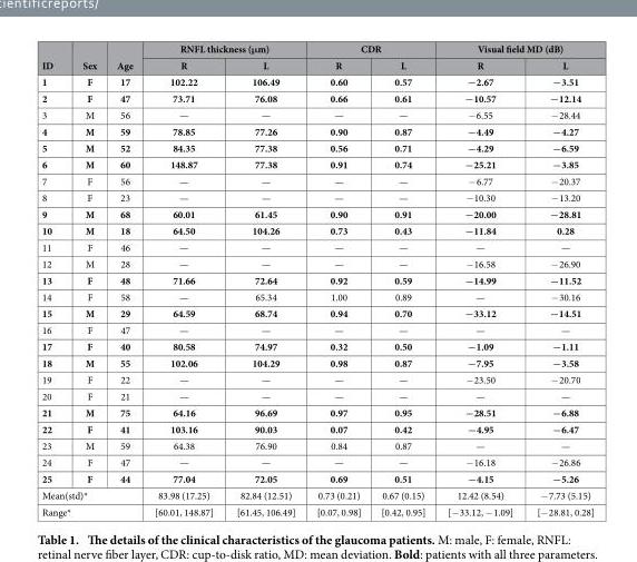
<table><thead><tr><td rowspan="2">ID</td><td rowspan="2">Sex</td><td rowspan="2">Age</td><td colspan="2">RNFL thickness (μm)</td><td colspan="2">CDR</td><td colspan="2">Visual field MD (dB)</td></tr><tr><td>R</td><td>L</td><td>R</td><td>L</td><td>R</td><td>L</td></tr></thead><tbody><tr><td>1</td><td>F</td><td>17</td><td>102.22</td><td>106.49</td><td>0.60</td><td>0.57</td><td>−2.67</td><td>−3.51</td></tr><tr><td>2</td><td>F</td><td>47</td><td>73.71</td><td>76.08</td><td>0.66</td><td>0.61</td><td>−10.57</td><td>−12.14</td></tr><tr><td>3</td><td>M</td><td>56</td><td>—</td><td>—</td><td>—</td><td>—</td><td>− 6.55</td><td>− 28.44</td></tr><tr><td>4</td><td>M</td><td>59</td><td>78.85</td><td>77.26</td><td>0.90</td><td>0.87</td><td>−4.49</td><td>−4.27</td></tr><tr><td>5</td><td>M</td><td>52</td><td>84.35</td><td>77.38</td><td>0.56</td><td>0.71</td><td>−4.29</td><td>−6.59</td></tr><tr><td>6</td><td>M</td><td>60</td><td>148.87</td><td>77.38</td><td>0.91</td><td>0.74</td><td>−25.21</td><td>−3.85</td></tr><tr><td>7</td><td>F</td><td>56</td><td>—</td><td>—</td><td>—</td><td>—</td><td>− 6.77</td><td>− 20.37</td></tr><tr><td>8</td><td>F</td><td>23</td><td>—</td><td>—</td><td>—</td><td>—</td><td>− 10.30</td><td>− 13.20</td></tr><tr><td>9</td><td>M</td><td>68</td><td>60.01</td><td>61.45</td><td>0.90</td><td>0.91</td><td>−20.00</td><td>−28.81</td></tr><tr><td>10</td><td>M</td><td>18</td><td>64.50</td><td>104.26</td><td>0.73</td><td>0.43</td><td>−11.84</td><td>0.28</td></tr><tr><td>11</td><td>F</td><td>46</td><td>—</td><td>—</td><td>—</td><td>—</td><td>—</td><td>—</td></tr><tr><td>12</td><td>M</td><td>28</td><td>—</td><td>—</td><td>—</td><td>—</td><td>− 16.58</td><td>− 26.90</td></tr><tr><td>13</td><td>F</td><td>48</td><td>71.66</td><td>72.64</td><td>0.92</td><td>0.59</td><td>−14.99</td><td>−11.52</td></tr><tr><td>14</td><td>F</td><td>58</td><td>—</td><td>65.34</td><td>1.00</td><td>0.89</td><td>—</td><td>− 30.16</td></tr><tr><td>15</td><td>M</td><td>29</td><td>64.59</td><td>68.74</td><td>0.94</td><td>0.70</td><td>−33.12</td><td>−14.51</td></tr><tr><td>16</td><td>F</td><td>47</td><td>—</td><td>—</td><td>—</td><td>—</td><td>—</td><td>—</td></tr><tr><td>17</td><td>F</td><td>40</td><td>80.58</td><td>74.97</td><td>0.32</td><td>0.50</td><td>−1.09</td><td>−1.11</td></tr><tr><td>18</td><td>M</td><td>55</td><td>102.06</td><td>104.29</td><td>0.98</td><td>0.87</td><td>−7.95</td><td>−3.58</td></tr><tr><td>19</td><td>F</td><td>22</td><td>—</td><td>—</td><td>—</td><td>—</td><td>− 23.50</td><td>− 20.70</td></tr><tr><td>20</td><td>F</td><td>21</td><td>—</td><td>—</td><td>—</td><td>—</td><td>—</td><td>—</td></tr><tr><td>21</td><td>M</td><td>75</td><td>64.16</td><td>96.69</td><td>0.97</td><td>0.95</td><td>−28.51</td><td>−6.88</td></tr><tr><td>22</td><td>F</td><td>41</td><td>103.16</td><td>90.03</td><td>0.07</td><td>0.42</td><td>−4.95</td><td>−6.47</td></tr><tr><td>23</td><td>M</td><td>59</td><td>64.38</td><td>76.90</td><td>0.84</td><td>0.87</td><td>—</td><td>—</td></tr><tr><td>24</td><td>F</td><td>47</td><td>—</td><td>—</td><td>—</td><td>—</td><td>− 16.18</td><td>− 26.86</td></tr><tr><td>25</td><td>F</td><td>44</td><td>77.04</td><td>72.05</td><td>0.69</td><td>0.51</td><td>−4.15</td><td>−5.26</td></tr><tr><td colspan="3">Mean(std)*</td><td>83.98 (17.25)</td><td>82.84 (12.51)</td><td>0.73 (0.21)</td><td>0.67 (0.15)</td><td>12.42 (8.54)</td><td>− 7.73 (5.15)</td></tr><tr><td colspan="3">Range*</td><td>[60.01, 148.87]</td><td>[61.45, 106.49]</td><td>[0.07, 0.98]</td><td>[0.42, 0.95]</td><td>[− 33.12, − 1.09]</td><td>[− 28.81, 0.28]</td></tr></tbody></table>